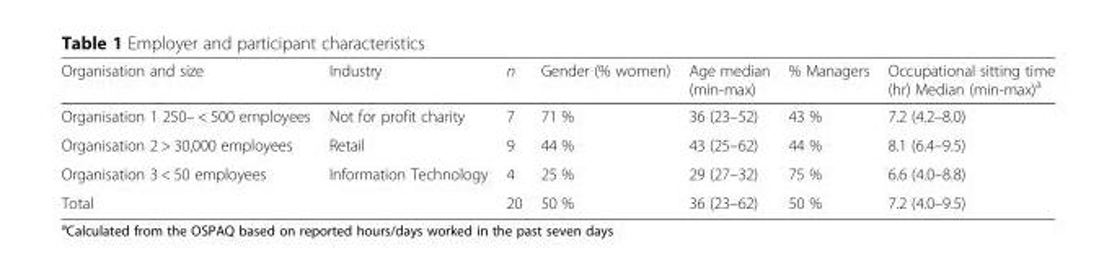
<table><thead><tr><td>Organisation and size</td><td>Industry</td><td>n</td><td>Gender (% women)</td><td>Age median (min-max)</td><td>% Managers</td><td>Occupational sitting time (hr) Median (min-max)<sup>a</sup></td></tr></thead><tbody><tr><td>Organisation 1 250– &lt; 500 employees</td><td>Not for profit charity</td><td>7</td><td>71 %</td><td>36 (23–52)</td><td>43 %</td><td>7.2 (4.2–8.0)</td></tr><tr><td>Organisation 2 &gt; 30,000 employees</td><td>Retail</td><td>9</td><td>44 %</td><td>43 (25–62)</td><td>44 %</td><td>8.1 (6.4–9.5)</td></tr><tr><td>Organisation 3 &lt; 50 employees</td><td>Information Technology</td><td>4</td><td>25 %</td><td>29 (27–32)</td><td>75 %</td><td>6.6 (4.0–8.8)</td></tr><tr><td>Total</td><td></td><td>20</td><td>50 %</td><td>36 (23–62)</td><td>50 %</td><td>7.2 (4.0–9.5)</td></tr></tbody></table>